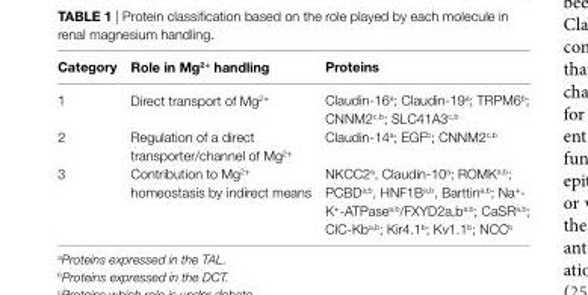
<table><thead><tr><td>Category</td><td>Role in Mg<sup>2+</sup> handling</td><td>Proteins</td></tr></thead><tbody><tr><td>1</td><td>Direct transport of Mg<sup>2+</sup></td><td>Claudin-16<sup>a</sup>; Claudin-19<sup>a</sup>; TRPM6<sup>b</sup>; CNNM2<sup>c,b</sup>; SLC41A3<sup>c,b</sup></td></tr><tr><td>2</td><td>Regulation of a direct transporter/channel of Mg<sup>2+</sup></td><td>Claudin-14<sup>a</sup>; EGF<sup>b</sup>; CNNM2<sup>c,b</sup></td></tr><tr><td>3</td><td>Contribution to Mg<sup>2+</sup> homeostasis by indirect means</td><td>NKCC2a, Claudin-10a; ROMKa,b; PCBDa,b, HNF1Ba,b, Barttina,b; Na+- K+-ATPasea,b/FXYD2a,ba,b; CaSRa,b; ClC-Kba,b; Kir4.1b; Kv1.1b; NCCb</td></tr></tbody></table>